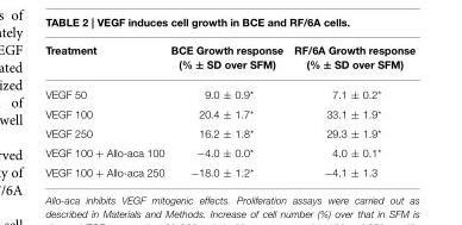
<table><thead><tr><td>Treatment</td><td>BCE Growth response (% ± SD over SFM)</td><td>RF/6A Growth response (% ± SD over SFM)</td></tr></thead><tbody><tr><td>VEGF 50</td><td>9.0 ± 0.9*</td><td>7.1 ± 0.2*</td></tr><tr><td>VEGF 100</td><td>20.4 ± 1.7*</td><td>33.1 ± 1.9*</td></tr><tr><td>VEGF 250</td><td>16.2 ± 1.8*</td><td>29.3 ± 1.9*</td></tr><tr><td>VEGF 100 + Allo-aca 100</td><td>−4.0 ± 0.0*</td><td>4.0 ± 0.1*</td></tr><tr><td>VEGF 100 + Allo-aca 250</td><td>−18.0 ± 1.2*</td><td>−4.1 ± 1.3</td></tr></tbody></table>